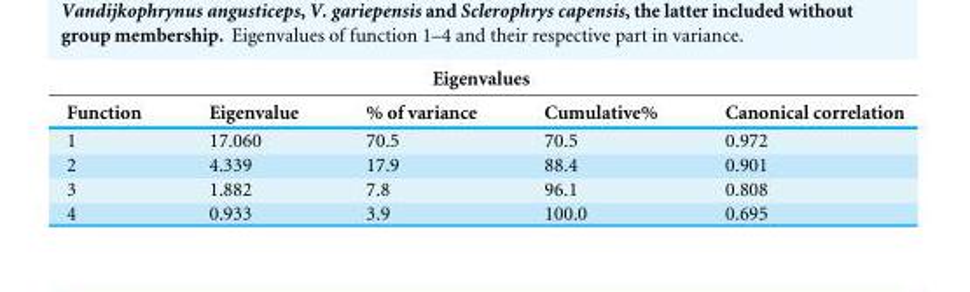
<table><thead><tr><td colspan="5">Eigenvalues</td></tr><tr><td>Function</td><td>Eigenvalue</td><td>% of variance</td><td>Cumulative%</td><td>Canonical correlation</td></tr></thead><tbody><tr><td>1</td><td>17.060</td><td>70.5</td><td>70.5</td><td>0.972</td></tr><tr><td>2</td><td>4.339</td><td>17.9</td><td>88.4</td><td>0.901</td></tr><tr><td>3</td><td>1.882</td><td>7.8</td><td>96.1</td><td>0.808</td></tr><tr><td>4</td><td>0.933</td><td>3.9</td><td>100.0</td><td>0.695</td></tr></tbody></table>